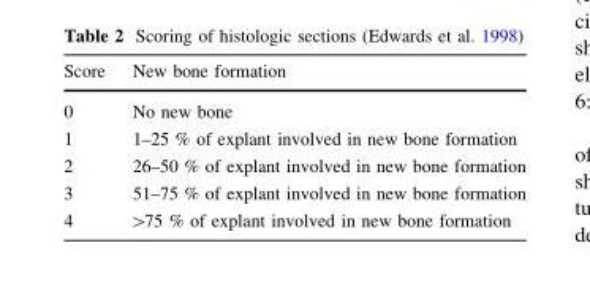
<table><thead><tr><td>Score</td><td>New bone formation</td></tr></thead><tbody><tr><td>0</td><td>No new bone</td></tr><tr><td>1</td><td>1–25 % of explant involved in new bone formation</td></tr><tr><td>2</td><td>26–50 % of explant involved in new bone formation</td></tr><tr><td>3</td><td>51–75 % of explant involved in new bone formation</td></tr><tr><td>4</td><td>&gt;75 % of explant involved in new bone formation</td></tr></tbody></table>